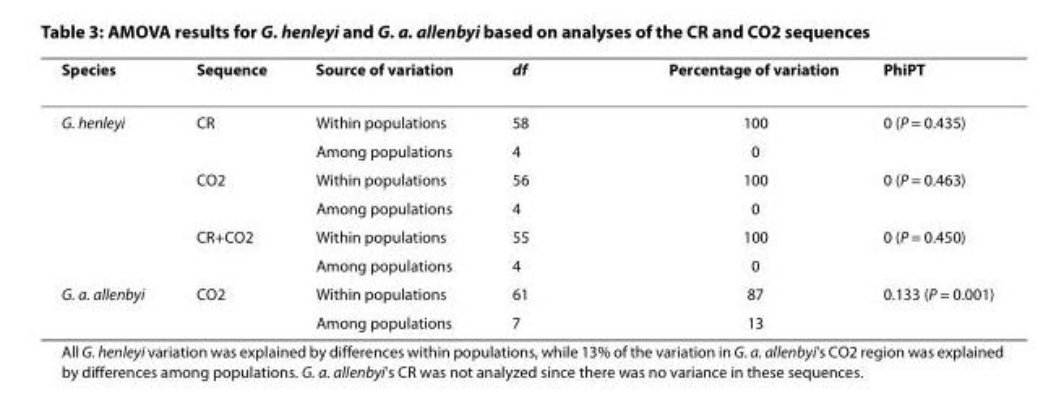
<table><thead><tr><td>Species</td><td>Sequence</td><td>Source of variation</td><td>df</td><td>Percentage of variation</td><td>PhiPT</td></tr></thead><tbody><tr><td rowspan="6">G. henleyi</td><td>CR</td><td>Within populations</td><td>58</td><td>100</td><td>0 (P = 0.435)</td></tr><tr><td></td><td>Among populations</td><td>4</td><td>0</td><td></td></tr><tr><td>CO2</td><td>Within populations</td><td>56</td><td>100</td><td>0 (P = 0.463)</td></tr><tr><td></td><td>Among populations</td><td>4</td><td>0</td><td></td></tr><tr><td>CR+CO2</td><td>Within populations</td><td>55</td><td>100</td><td>0 (P = 0.450)</td></tr><tr><td></td><td>Among populations</td><td>4</td><td>0</td><td></td></tr><tr><td rowspan="2">G. a. allenbyi</td><td>CO2</td><td>Within populations</td><td>61</td><td>87</td><td>0.133 (P = 0.001)</td></tr><tr><td></td><td>Among populations</td><td>7</td><td>13</td><td></td></tr></tbody></table>